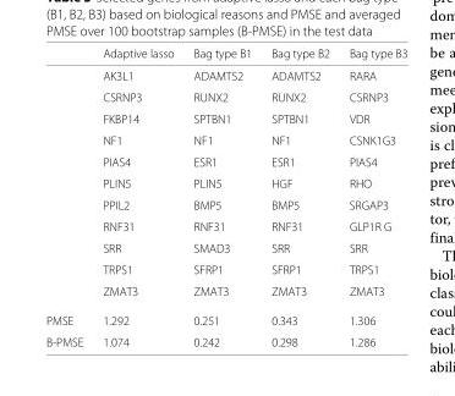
<table><thead><tr><td></td><td>Adaptive lasso</td><td>Bag type B1</td><td>Bag type B2</td><td>Bag type B3</td></tr></thead><tbody><tr><td></td><td>AK3L1</td><td>ADAMTS2</td><td>ADAMTS2</td><td>RARA</td></tr><tr><td></td><td>CSRNP3</td><td>RUNX2</td><td>RUNX2</td><td>CSRNP3</td></tr><tr><td></td><td>FKBP14</td><td>SPTBN1</td><td>SPTBN1</td><td>VDR</td></tr><tr><td></td><td>NF1</td><td>NF1</td><td>NF1</td><td>CSNK1G3</td></tr><tr><td></td><td>PIAS4</td><td>ESR1</td><td>ESR1</td><td>PIAS4</td></tr><tr><td></td><td>PLIN5</td><td>PLIN5</td><td>HGF</td><td>RHO</td></tr><tr><td></td><td>PPIL2</td><td>BMP5</td><td>BMP5</td><td>SRGAP3</td></tr><tr><td></td><td>RNF31</td><td>RNF31</td><td>RNF31</td><td>GLP1R G</td></tr><tr><td></td><td>SRR</td><td>SMAD3</td><td>SRR</td><td>SRR</td></tr><tr><td></td><td>TRPS1</td><td>SFRP1</td><td>SFRP1</td><td>TRPS1</td></tr><tr><td></td><td>ZMAT3</td><td>ZMAT3</td><td>ZMAT3</td><td>ZMAT3</td></tr><tr><td>PMSE</td><td>1.292</td><td>0.251</td><td>0.343</td><td>1.306</td></tr><tr><td>B-PMSE</td><td>1.074</td><td>0.242</td><td>0.298</td><td>1.286</td></tr></tbody></table>